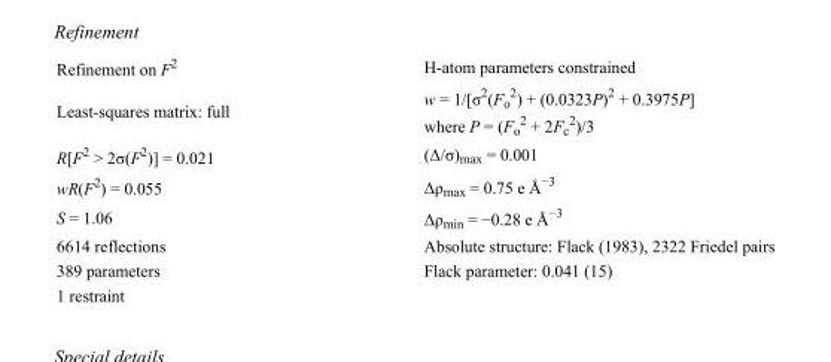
<table><tbody><tr><td>Refinement on F<sup>2</sup></td><td>H-atom parameters constrained</td></tr><tr><td>Least-squares matrix: full</td><td>w = 1/[σ<sup>2</sup>(F<sub>o</sub> <sup>2</sup>) + (0.0323P)<sup>2</sup> + 0.3975P] where P = (F<sub>o</sub> <sup>2</sup> + 2F<sub>c</sub> <sup>2</sup>)/3</td></tr><tr><td>R[F<sup>2</sup> &gt; 2σ(F<sup>2</sup>)] = 0.021</td><td>(Δ/σ)<sub>max</sub> = 0.001</td></tr><tr><td>wR(F<sup>2</sup>) = 0.055</td><td>Δρ<sub>max</sub> = 0.75 e Å<sup>−3</sup></td></tr><tr><td>S = 1.06</td><td>Δρ<sub>min</sub> = −0.28 e Å<sup>−3</sup></td></tr><tr><td>6614 reflections</td><td>Absolute structure: Flack (1983), 2322 Friedel pairs</td></tr><tr><td>389 parameters</td><td>Flack parameter: 0.041 (15)</td></tr><tr><td>1 restraint</td><td></td></tr></tbody></table>